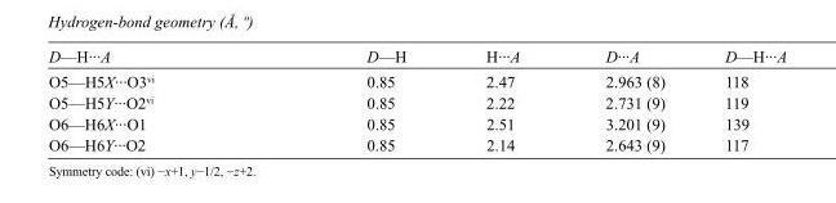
<table><tbody><tr><td>D—H···A</td><td>D—H</td><td>H···A</td><td>D···A</td><td>D—H···A</td></tr><tr><td>O5—H5X···O3<sup>vi</sup></td><td>0.85</td><td>2.47</td><td>2.963 (8)</td><td>118</td></tr><tr><td>O5—H5Y···O2<sup>vi</sup></td><td>0.85</td><td>2.22</td><td>2.731 (9)</td><td>119</td></tr><tr><td>O6—H6X···O1</td><td>0.85</td><td>2.51</td><td>3.201 (9)</td><td>139</td></tr><tr><td>O6—H6Y···O2</td><td>0.85</td><td>2.14</td><td>2.643 (9)</td><td>117</td></tr></tbody></table>